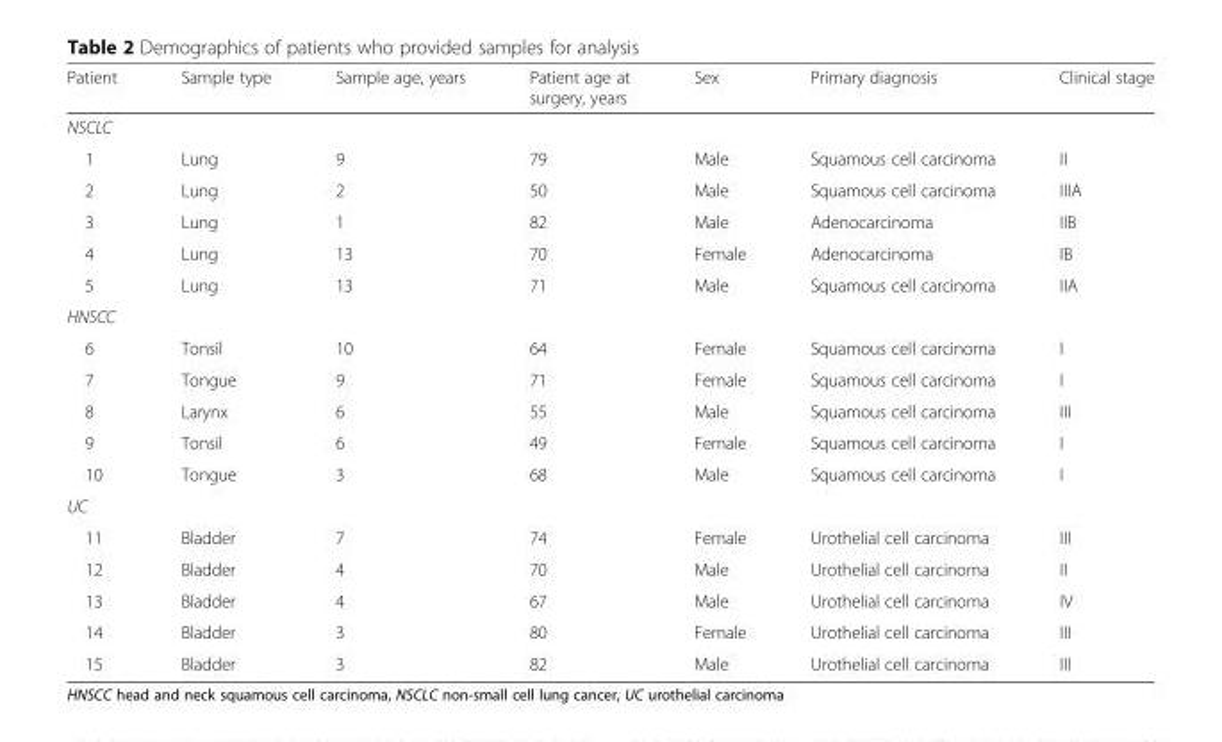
<table><thead><tr><td>Patient</td><td>Sample type</td><td>Sample age, years</td><td>Patient age at surgery, years</td><td>Sex</td><td>Primary diagnosis</td><td>Clinical stage</td></tr></thead><tbody><tr><td colspan="7">NSCLC</td></tr><tr><td>1</td><td>Lung</td><td>9</td><td>79</td><td>Male</td><td>Squamous cell carcinoma</td><td>II</td></tr><tr><td>2</td><td>Lung</td><td>2</td><td>50</td><td>Male</td><td>Squamous cell carcinoma</td><td>IIIA</td></tr><tr><td>3</td><td>Lung</td><td>1</td><td>82</td><td>Male</td><td>Adenocarcinoma</td><td>IIB</td></tr><tr><td>4</td><td>Lung</td><td>13</td><td>70</td><td>Female</td><td>Adenocarcinoma</td><td>IB</td></tr><tr><td>5</td><td>Lung</td><td>13</td><td>71</td><td>Male</td><td>Squamous cell carcinoma</td><td>IIA</td></tr><tr><td colspan="7">HNSCC</td></tr><tr><td>6</td><td>Tonsil</td><td>10</td><td>64</td><td>Female</td><td>Squamous cell carcinoma</td><td>I</td></tr><tr><td>7</td><td>Tongue</td><td>9</td><td>71</td><td>Female</td><td>Squamous cell carcinoma</td><td>I</td></tr><tr><td>8</td><td>Larynx</td><td>6</td><td>55</td><td>Male</td><td>Squamous cell carcinoma</td><td>III</td></tr><tr><td>9</td><td>Tonsil</td><td>6</td><td>49</td><td>Female</td><td>Squamous cell carcinoma</td><td>I</td></tr><tr><td>10</td><td>Tongue</td><td>3</td><td>68</td><td>Male</td><td>Squamous cell carcinoma</td><td>I</td></tr><tr><td colspan="7">UC</td></tr><tr><td>11</td><td>Bladder</td><td>7</td><td>74</td><td>Female</td><td>Urothelial cell carcinoma</td><td>III</td></tr><tr><td>12</td><td>Bladder</td><td>4</td><td>70</td><td>Male</td><td>Urothelial cell carcinoma</td><td>II</td></tr><tr><td>13</td><td>Bladder</td><td>4</td><td>67</td><td>Male</td><td>Urothelial cell carcinoma</td><td>IV</td></tr><tr><td>14</td><td>Bladder</td><td>3</td><td>80</td><td>Female</td><td>Urothelial cell carcinoma</td><td>III</td></tr><tr><td>15</td><td>Bladder</td><td>3</td><td>82</td><td>Male</td><td>Urothelial cell carcinoma</td><td>III</td></tr></tbody></table>